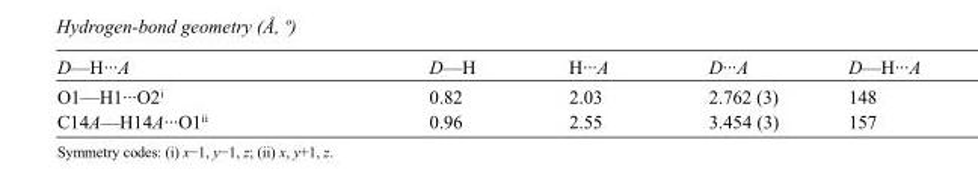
<table><tbody><tr><td>D—H···A</td><td>D—H</td><td>H···A</td><td>D···A</td><td>D—H···A</td></tr><tr><td>O1—H1···O2<sup>i</sup></td><td>0.82</td><td>2.03</td><td>2.762 (3)</td><td>148</td></tr><tr><td>C14A—H14A···O1<sup>ii</sup></td><td>0.96</td><td>2.55</td><td>3.454 (3)</td><td>157</td></tr></tbody></table>